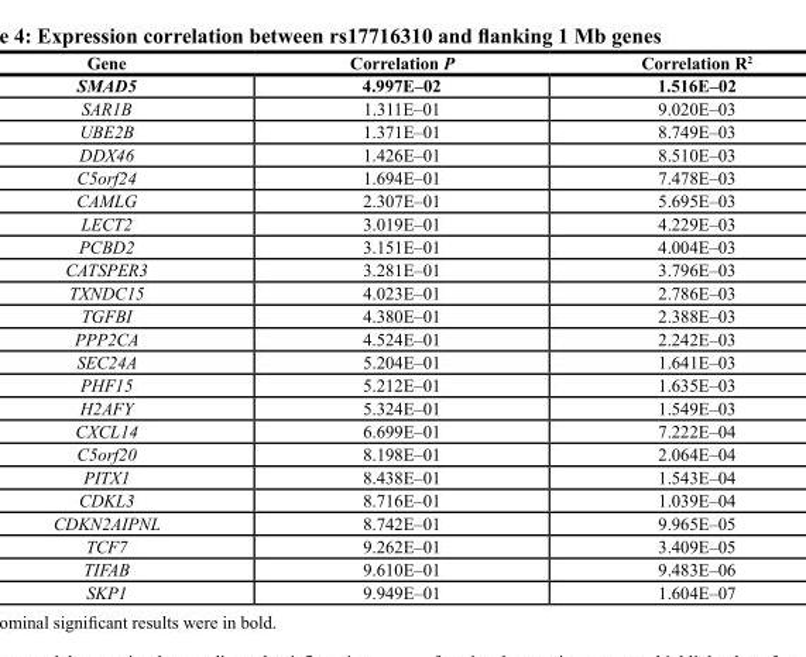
<table><thead><tr><td>Gene</td><td>Correlation P</td><td>Correlation R<sup>2</sup></td></tr></thead><tbody><tr><td>SMAD5</td><td>4.997E–02</td><td>1.516E–02</td></tr><tr><td>SAR1B</td><td>1.311E–01</td><td>9.020E–03</td></tr><tr><td>UBE2B</td><td>1.371E–01</td><td>8.749E–03</td></tr><tr><td>DDX46</td><td>1.426E–01</td><td>8.510E–03</td></tr><tr><td>C5orf24</td><td>1.694E–01</td><td>7.478E–03</td></tr><tr><td>CAMLG</td><td>2.307E–01</td><td>5.695E–03</td></tr><tr><td>LECT2</td><td>3.019E–01</td><td>4.229E–03</td></tr><tr><td>PCBD2</td><td>3.151E–01</td><td>4.004E–03</td></tr><tr><td>CATSPER3</td><td>3.281E–01</td><td>3.796E–03</td></tr><tr><td>TXNDC15</td><td>4.023E–01</td><td>2.786E–03</td></tr><tr><td>TGFBI</td><td>4.380E–01</td><td>2.388E–03</td></tr><tr><td>PPP2CA</td><td>4.524E–01</td><td>2.242E–03</td></tr><tr><td>SEC24A</td><td>5.204E–01</td><td>1.641E–03</td></tr><tr><td>PHF15</td><td>5.212E–01</td><td>1.635E–03</td></tr><tr><td>H2AFY</td><td>5.324E–01</td><td>1.549E–03</td></tr><tr><td>CXCL14</td><td>6.699E–01</td><td>7.222E–04</td></tr><tr><td>C5orf20</td><td>8.198E–01</td><td>2.064E–04</td></tr><tr><td>PITX1</td><td>8.438E–01</td><td>1.543E–04</td></tr><tr><td>CDKL3</td><td>8.716E–01</td><td>1.039E–04</td></tr><tr><td>CDKN2AIPNL</td><td>8.742E–01</td><td>9.965E–05</td></tr><tr><td>TCF7</td><td>9.262E–01</td><td>3.409E–05</td></tr><tr><td>TIFAB</td><td>9.610E–01</td><td>9.483E–06</td></tr><tr><td>SKP1</td><td>9.949E–01</td><td>1.604E–07</td></tr></tbody></table>